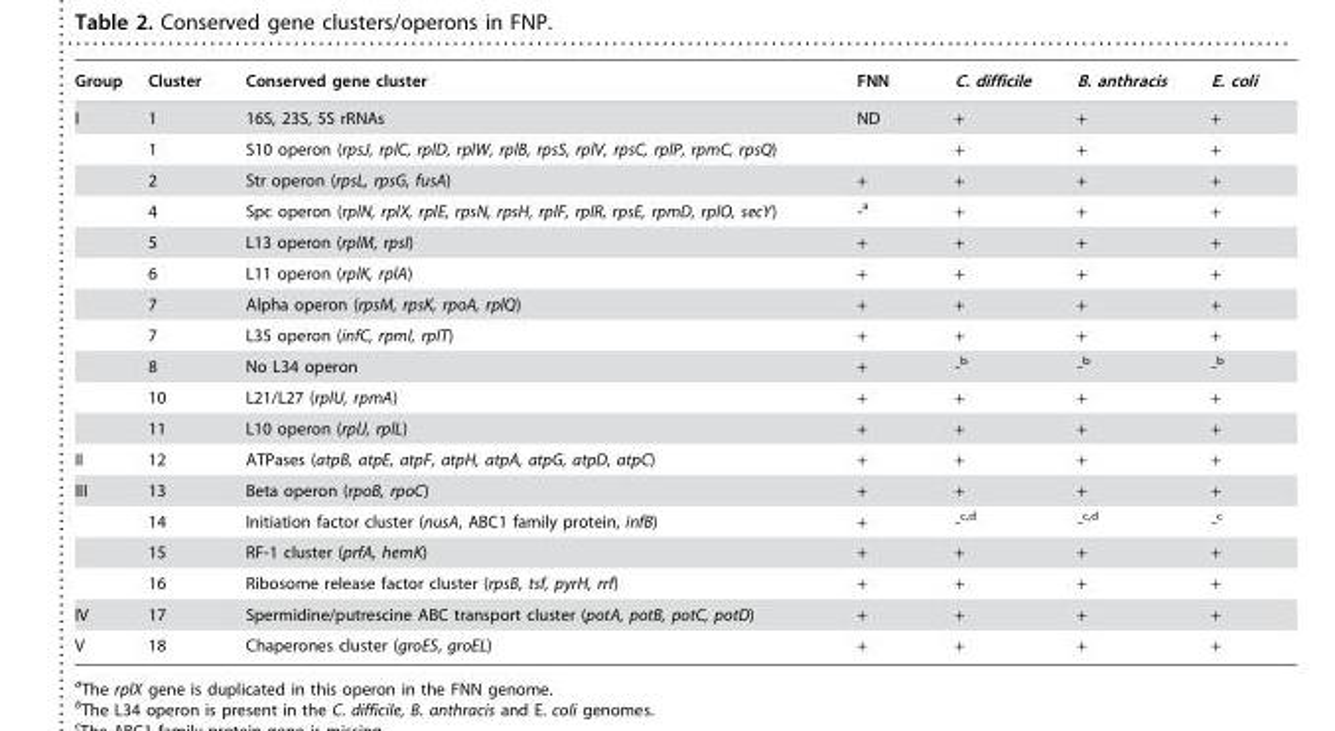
<table><thead><tr><td>Group</td><td>Cluster</td><td>Conserved gene cluster</td><td>FNN</td><td>C. difficile</td><td>B. anthracis</td><td>E. coli</td></tr></thead><tbody><tr><td rowspan="11">I</td><td>1</td><td>16S, 23S, 5S rRNAs</td><td>ND</td><td>+</td><td>+</td><td>+</td></tr><tr><td>1</td><td>S10 operon (rpsJ, rplC, rplD, rplW, rplB, rpsS, rplV, rpsC, rplP, rpmC, rpsQ)</td><td></td><td>+</td><td>+</td><td>+</td></tr><tr><td>2</td><td>Str operon (rpsL, rpsG, fusA)</td><td>+</td><td>+</td><td>+</td><td>+</td></tr><tr><td>4</td><td>Spc operon (rplN, rplX, rplE, rpsN, rpsH, rplF, rplR, rpsE, rpmD, rplO, secY)</td><td>-a</td><td>+</td><td>+</td><td>+</td></tr><tr><td>5</td><td>L13 operon (rplM, rpsI)</td><td>+</td><td>+</td><td>+</td><td>+</td></tr><tr><td>6</td><td>L11 operon (rplK, rplA)</td><td>+</td><td>+</td><td>+</td><td>+</td></tr><tr><td>7</td><td>Alpha operon (rpsM, rpsK, rpoA, rplQ)</td><td>+</td><td>+</td><td>+</td><td>+</td></tr><tr><td>7</td><td>L35 operon (infC, rpmI, rplT)</td><td>+</td><td>+</td><td>+</td><td>+</td></tr><tr><td>8</td><td>No L34 operon</td><td>+</td><td>-b</td><td>-b</td><td>-b</td></tr><tr><td>10</td><td>L21/L27 (rplU, rpmA)</td><td>+</td><td>+</td><td>+</td><td>+</td></tr><tr><td>11</td><td>L10 operon (rplJ, rplL)</td><td>+</td><td>+</td><td>+</td><td>+</td></tr><tr><td>II</td><td>12</td><td>ATPases (atpB, atpE, atpF, atpH, atpA, atpG, atpD, atpC)</td><td>+</td><td>+</td><td>+</td><td>+</td></tr><tr><td rowspan="4">III</td><td>13</td><td>Beta operon (rpoB, rpoC)</td><td>+</td><td>+</td><td>+</td><td>+</td></tr><tr><td>14</td><td>Initiation factor cluster (nusA, ABC1 family protein, infB)</td><td>+</td><td>-c<sup>,</sup>d</td><td>-c<sup>,</sup>d</td><td>-c</td></tr><tr><td>15</td><td>RF-1 cluster (prfA, hemK)</td><td>+</td><td>+</td><td>+</td><td>+</td></tr><tr><td>16</td><td>Ribosome release factor cluster (rpsB, tsf, pyrH, rrf)</td><td>+</td><td>+</td><td>+</td><td>+</td></tr><tr><td>IV</td><td>17</td><td>Spermidine/putrescine ABC transport cluster (potA, potB, potC, potD)</td><td>+</td><td>+</td><td>+</td><td>+</td></tr><tr><td>V</td><td>18</td><td>Chaperones cluster (groES, groEL)</td><td>+</td><td>+</td><td>+</td><td>+</td></tr></tbody></table>